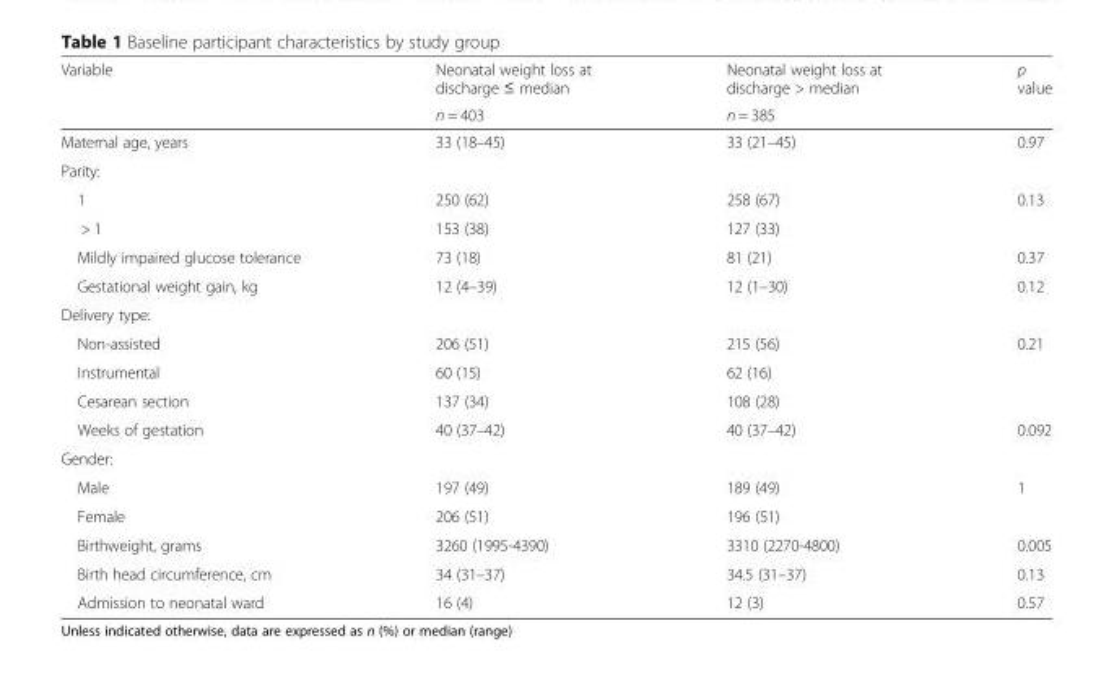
<table><thead><tr><td rowspan="2">Variable</td><td rowspan="2">Neonatal weight loss at discharge ≤ median n = 403</td><td rowspan="2">Neonatal weight loss at discharge &gt; median n = 385</td><td rowspan="2">p value</td></tr><tr></tr></thead><tbody><tr><td>Maternal age, years</td><td>33 (18–45)</td><td>33 (21–45)</td><td>0.97</td></tr><tr><td colspan="4">Parity:</td></tr><tr><td>1</td><td>250 (62)</td><td>258 (67)</td><td>0.13</td></tr><tr><td>&gt; 1</td><td>153 (38)</td><td>127 (33)</td><td></td></tr><tr><td>Mildly impaired glucose tolerance</td><td>73 (18)</td><td>81 (21)</td><td>0.37</td></tr><tr><td>Gestational weight gain, kg</td><td>12 (4–39)</td><td>12 (1–30)</td><td>0.12</td></tr><tr><td colspan="4">Delivery type:</td></tr><tr><td>Non-assisted</td><td>206 (51)</td><td>215 (56)</td><td>0.21</td></tr><tr><td>Instrumental</td><td>60 (15)</td><td>62 (16)</td><td></td></tr><tr><td>Cesarean section</td><td>137 (34)</td><td>108 (28)</td><td></td></tr><tr><td>Weeks of gestation</td><td>40 (37–42)</td><td>40 (37–42)</td><td>0.092</td></tr><tr><td colspan="4">Gender:</td></tr><tr><td>Male</td><td>197 (49)</td><td>189 (49)</td><td>1</td></tr><tr><td>Female</td><td>206 (51)</td><td>196 (51)</td><td></td></tr><tr><td>Birthweight, grams</td><td>3260 (1995-4390)</td><td>3310 (2270-4800)</td><td>0.005</td></tr><tr><td>Birth head circumference, cm</td><td>34 (31–37)</td><td>34.5 (31–37)</td><td>0.13</td></tr><tr><td>Admission to neonatal ward</td><td>16 (4)</td><td>12 (3)</td><td>0.57</td></tr></tbody></table>